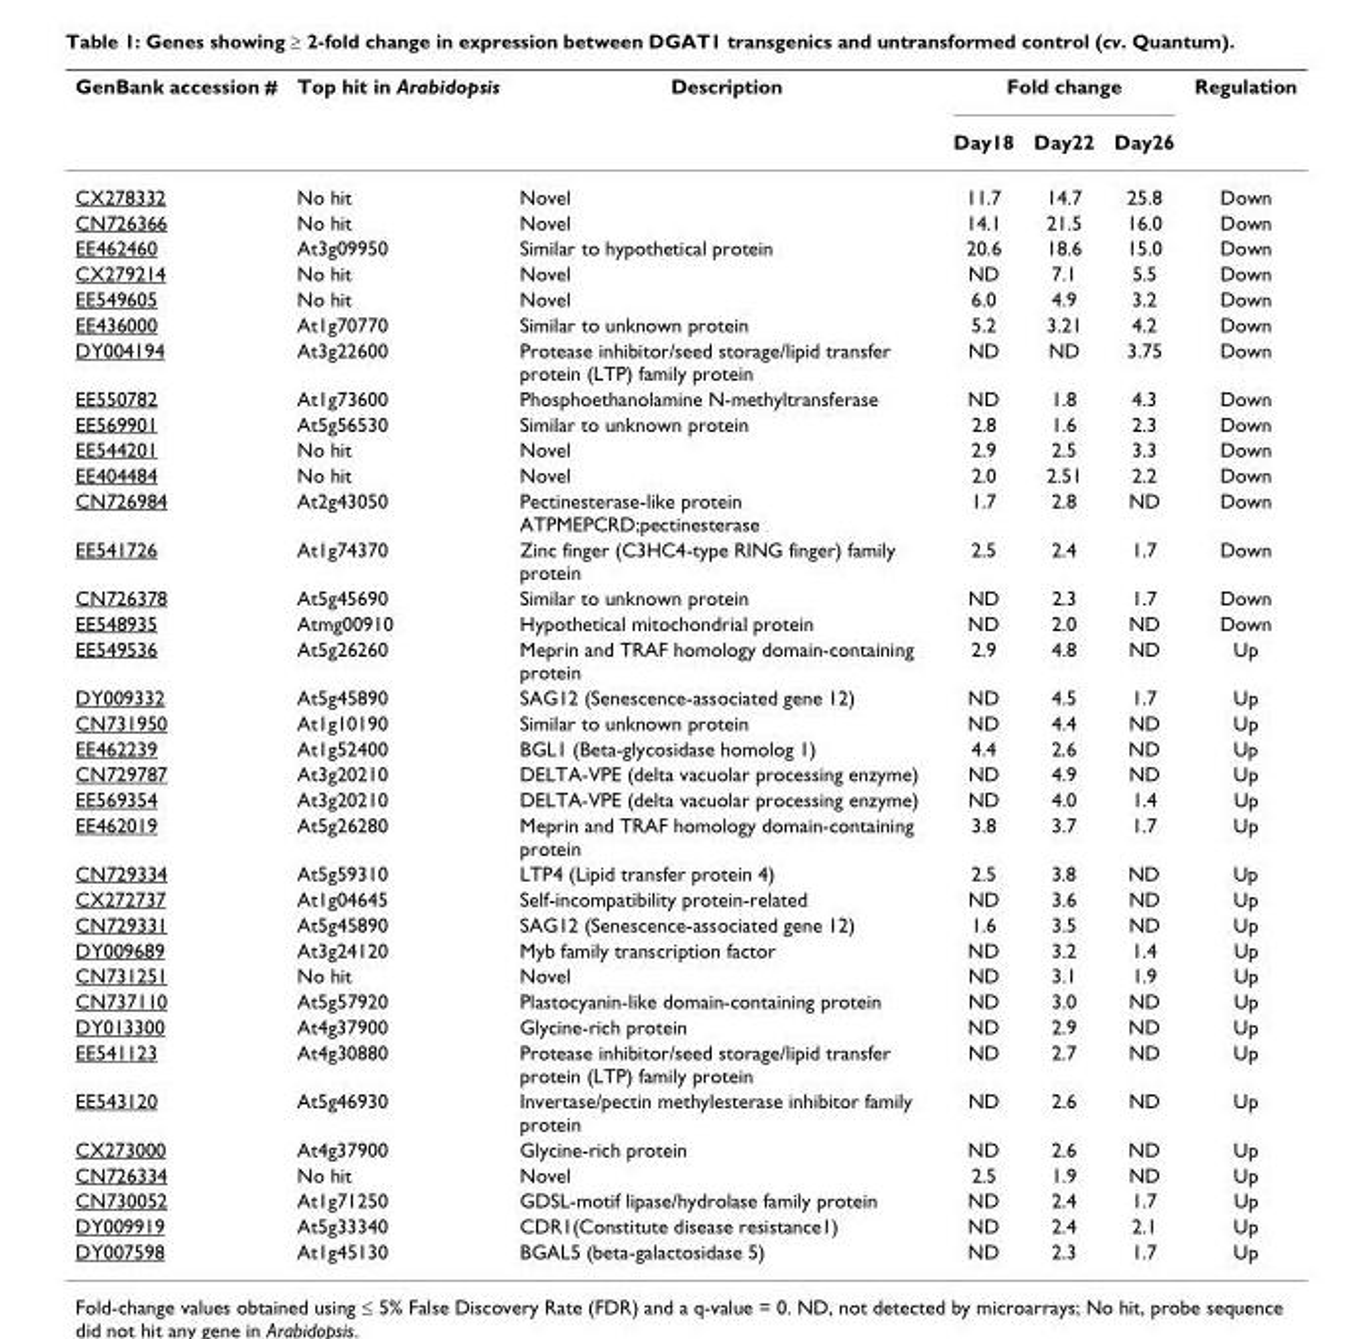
<table><thead><tr><td rowspan="2">GenBank accession #</td><td rowspan="2">Top hit in Arabidopsis</td><td rowspan="2">Description</td><td colspan="3">Fold change</td><td rowspan="2">Regulation</td></tr><tr><td>Day18</td><td>Day22</td><td>Day26</td></tr></thead><tbody><tr><td>CX278332</td><td>No hit</td><td>Novel</td><td>11.7</td><td>14.7</td><td>25.8</td><td>Down</td></tr><tr><td>CN726366</td><td>No hit</td><td>Novel</td><td>14.1</td><td>21.5</td><td>16.0</td><td>Down</td></tr><tr><td>EE462460</td><td>At3g09950</td><td>Similar to hypothetical protein</td><td>20.6</td><td>18.6</td><td>15.0</td><td>Down</td></tr><tr><td>CX279214</td><td>No hit</td><td>Novel</td><td>ND</td><td>7.1</td><td>5.5</td><td>Down</td></tr><tr><td>EE549605</td><td>No hit</td><td>Novel</td><td>6.0</td><td>4.9</td><td>3.2</td><td>Down</td></tr><tr><td>EE436000</td><td>At1g70770</td><td>Similar to unknown protein</td><td>5.2</td><td>3.21</td><td>4.2</td><td>Down</td></tr><tr><td>DY004194</td><td>At3g22600</td><td>Protease inhibitor/seed storage/lipid transfer protein (LTP) family protein</td><td>ND</td><td>ND</td><td>3.75</td><td>Down</td></tr><tr><td>EE550782</td><td>At1g73600</td><td>Phosphoethanolamine N-methyltransferase</td><td>ND</td><td>1.8</td><td>4.3</td><td>Down</td></tr><tr><td>EE569901</td><td>At5g56530</td><td>Similar to unknown protein</td><td>2.8</td><td>1.6</td><td>2.3</td><td>Down</td></tr><tr><td>EE544201</td><td>No hit</td><td>Novel</td><td>2.9</td><td>2.5</td><td>3.3</td><td>Down</td></tr><tr><td>EE404484</td><td>No hit</td><td>Novel</td><td>2.0</td><td>2.51</td><td>2.2</td><td>Down</td></tr><tr><td>CN726984</td><td>At2g43050</td><td>Pectinesterase-like protein ATPMEPCRD;pectinesterase</td><td>1.7</td><td>2.8</td><td>ND</td><td>Down</td></tr><tr><td>EE541726</td><td>At1g74370</td><td>Zinc finger (C3HC4-type RING finger) family protein</td><td>2.5</td><td>2.4</td><td>1.7</td><td>Down</td></tr><tr><td>CN726378</td><td>At5g45690</td><td>Similar to unknown protein</td><td>ND</td><td>2.3</td><td>1.7</td><td>Down</td></tr><tr><td>EE548935</td><td>Atmg00910</td><td>Hypothetical mitochondrial protein</td><td>ND</td><td>2.0</td><td>ND</td><td>Down</td></tr><tr><td>EE549536</td><td>At5g26260</td><td>Meprin and TRAF homology domain-containing protein</td><td>2.9</td><td>4.8</td><td>ND</td><td>Up</td></tr><tr><td>DY009332</td><td>At5g45890</td><td>SAG12 (Senescence-associated gene 12)</td><td>ND</td><td>4.5</td><td>1.7</td><td>Up</td></tr><tr><td>CN731950</td><td>At1g10190</td><td>Similar to unknown protein</td><td>ND</td><td>4.4</td><td>ND</td><td>Up</td></tr><tr><td>EE462239</td><td>At1g52400</td><td>BGL1 (Beta-glycosidase homolog 1)</td><td>4.4</td><td>2.6</td><td>ND</td><td>Up</td></tr><tr><td>CN729787</td><td>At3g20210</td><td>DELTA-VPE (delta vacuolar processing enzyme)</td><td>ND</td><td>4.9</td><td>ND</td><td>Up</td></tr><tr><td>EE569354</td><td>At3g20210</td><td>DELTA-VPE (delta vacuolar processing enzyme)</td><td>ND</td><td>4.0</td><td>1.4</td><td>Up</td></tr><tr><td>EE462019</td><td>At5g26280</td><td>Meprin and TRAF homology domain-containing protein</td><td>3.8</td><td>3.7</td><td>1.7</td><td>Up</td></tr><tr><td>CN729334</td><td>At5g59310</td><td>LTP4 (Lipid transfer protein 4)</td><td>2.5</td><td>3.8</td><td>ND</td><td>Up</td></tr><tr><td>CX272737</td><td>At1g04645</td><td>Self-incompatibility protein-related</td><td>ND</td><td>3.6</td><td>ND</td><td>Up</td></tr><tr><td>CN729331</td><td>At5g45890</td><td>SAG12 (Senescence-associated gene 12)</td><td>1.6</td><td>3.5</td><td>ND</td><td>Up</td></tr><tr><td>DY009689</td><td>At3g24120</td><td>Myb family transcription factor</td><td>ND</td><td>3.2</td><td>1.4</td><td>Up</td></tr><tr><td>CN731251</td><td>No hit</td><td>Novel</td><td>ND</td><td>3.1</td><td>1.9</td><td>Up</td></tr><tr><td>CN737110</td><td>At5g57920</td><td>Plastocyanin-like domain-containing protein</td><td>ND</td><td>3.0</td><td>ND</td><td>Up</td></tr><tr><td>DY013300</td><td>At4g37900</td><td>Glycine-rich protein</td><td>ND</td><td>2.9</td><td>ND</td><td>Up</td></tr><tr><td>EE541123</td><td>At4g30880</td><td>Protease inhibitor/seed storage/lipid transfer protein (LTP) family protein</td><td>ND</td><td>2.7</td><td>ND</td><td>Up</td></tr><tr><td>EE543120</td><td>At5g46930</td><td>Invertase/pectin methylesterase inhibitor family protein</td><td>ND</td><td>2.6</td><td>ND</td><td>Up</td></tr><tr><td>CX273000</td><td>At4g37900</td><td>Glycine-rich protein</td><td>ND</td><td>2.6</td><td>ND</td><td>Up</td></tr><tr><td>CN726334</td><td>No hit</td><td>Novel</td><td>2.5</td><td>1.9</td><td>ND</td><td>Up</td></tr><tr><td>CN730052</td><td>At1g71250</td><td>GDSL-motif lipase/hydrolase family protein</td><td>ND</td><td>2.4</td><td>1.7</td><td>Up</td></tr><tr><td>DY009919</td><td>At5g33340</td><td>CDR1(Constitute disease resistance1)</td><td>ND</td><td>2.4</td><td>2.1</td><td>Up</td></tr><tr><td>DY007598</td><td>At1g45130</td><td>BGAL5 (beta-galactosidase 5)</td><td>ND</td><td>2.3</td><td>1.7</td><td>Up</td></tr></tbody></table>